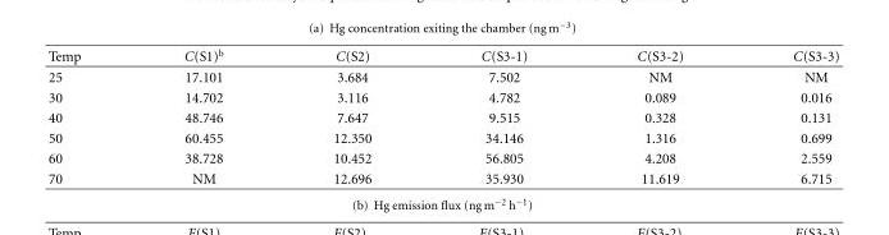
<table><thead><tr><td>Temp</td><td>C(S1)<sup>b</sup></td><td>C(S2)</td><td>C(S3-1)</td><td>C(S3-2)</td><td>C(S3-3)</td></tr></thead><tbody><tr><td>25</td><td>17.101</td><td>3.684</td><td>7.502</td><td>NM</td><td>NM</td></tr><tr><td>30</td><td>14.702</td><td>3.116</td><td>4.782</td><td>0.089</td><td>0.016</td></tr><tr><td>40</td><td>48.746</td><td>7.647</td><td>9.515</td><td>0.328</td><td>0.131</td></tr><tr><td>50</td><td>60.455</td><td>12.350</td><td>34.146</td><td>1.316</td><td>0.699</td></tr><tr><td>60</td><td>38.728</td><td>10.452</td><td>56.805</td><td>4.208</td><td>2.559</td></tr><tr><td>70</td><td>NM</td><td>12.696</td><td>35.930</td><td>11.619</td><td>6.715</td></tr></tbody></table>